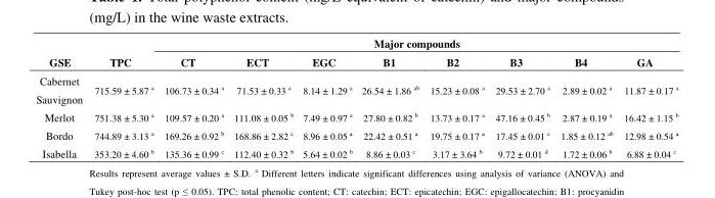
<table><thead><tr><td rowspan="2">GSE</td><td rowspan="2">TPC</td><td colspan="8">Major compounds</td></tr><tr><td>CT</td><td>ECT</td><td>EGC</td><td>B1</td><td>B2</td><td>B3</td><td>B4</td><td>GA</td></tr></thead><tbody><tr><td>Cabernet Sauvignon</td><td>715.59 ± 5.87 <sup>a</sup></td><td>106.73 ± 0.34 <sup>a</sup></td><td>71.53 ± 0.33 <sup>a</sup></td><td>8.14 ± 1.29 <sup>a</sup></td><td>26.54 ± 1.86 <sup>ab</sup></td><td>15.23 ± 0.08 <sup>a</sup></td><td>29.53 ± 2.70 <sup>a</sup></td><td>2.89 ± 0.02 <sup>a</sup></td><td>11.87 ± 0.17 <sup>a</sup></td></tr><tr><td>Merlot</td><td>751.38 ± 5.30 <sup>a</sup></td><td>109.57 ± 0.20 <sup>a</sup></td><td>111.08 ± 0.05 <sup>b</sup></td><td>7.49 ± 0.97 <sup>a</sup></td><td>27.80 ± 0.82 <sup>b</sup></td><td>13.73 ± 0.17 <sup>a</sup></td><td>47.16 ± 0.45 <sup>b</sup></td><td>2.87 ± 0.19 <sup>a</sup></td><td>16.42 ± 1.15 <sup>b</sup></td></tr><tr><td>Bordo</td><td>744.89 ± 3.13 <sup>a</sup></td><td>169.26 ± 0.92 <sup>b</sup></td><td>168.86 ± 2.82 <sup>c</sup></td><td>8.96 ± 0.05 ª</td><td>22.42 ± 0.51 ª</td><td>19.75 ± 0.17 ª</td><td>17.45 ± 0.01 <sup>c</sup></td><td>1.85 ± 0.12 <sup>ab</sup></td><td>12.98 ± 0.54 ª</td></tr><tr><td>Isabella</td><td>353.20 ± 4.60 <sup>b</sup></td><td>135.36 ± 0.99 <sup>c</sup></td><td>112.40 ± 0.32 <sup>b</sup></td><td>5.64 ± 0.02 <sup>b</sup></td><td>8.86 ± 0.03 <sup>c</sup></td><td>3.17 ± 3.64 <sup>b</sup></td><td>9.72 ± 0.01 <sup>d</sup></td><td>1.72 ± 0.06 <sup>b</sup></td><td>6.88 ± 0.04 <sup>c</sup></td></tr></tbody></table>